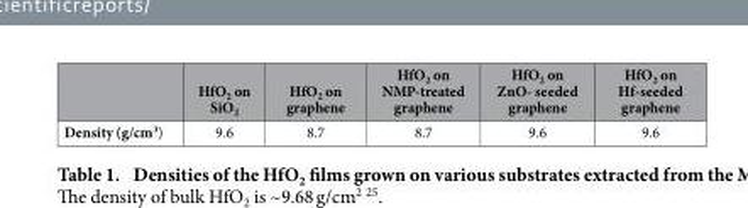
<table><thead><tr><td></td><td>HfO<sub>2</sub> on SiO<sub>2</sub></td><td>HfO<sub>2</sub> on graphene</td><td>HfO<sub>2</sub> on NMP-treated graphene</td><td>HfO<sub>2</sub> on ZnO- seeded graphene</td><td>HfO<sub>2</sub> on Hf-seeded graphene</td></tr></thead><tbody><tr><td>Density (g/cm<sup>3</sup>)</td><td>9.6</td><td>8.7</td><td>8.7</td><td>9.6</td><td>9.6</td></tr></tbody></table>